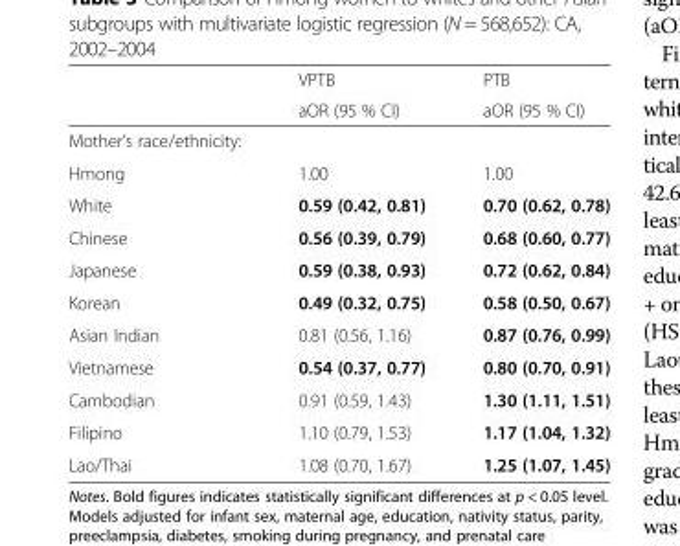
<table><thead><tr><td rowspan="2"></td><td rowspan="2">VPTB aOR (95 % CI)</td><td rowspan="2">PTB aOR (95 % CI)</td></tr><tr></tr></thead><tbody><tr><td colspan="3">Mother’s race/ethnicity:</td></tr><tr><td>Hmong</td><td>1.00</td><td>1.00</td></tr><tr><td>White</td><td>0.59 (0.42, 0.81)</td><td>0.70 (0.62, 0.78)</td></tr><tr><td>Chinese</td><td>0.56 (0.39, 0.79)</td><td>0.68 (0.60, 0.77)</td></tr><tr><td>Japanese</td><td>0.59 (0.38, 0.93)</td><td>0.72 (0.62, 0.84)</td></tr><tr><td>Korean</td><td>0.49 (0.32, 0.75)</td><td>0.58 (0.50, 0.67)</td></tr><tr><td>Asian Indian</td><td>0.81 (0.56, 1.16)</td><td>0.87 (0.76, 0.99)</td></tr><tr><td>Vietnamese</td><td>0.54 (0.37, 0.77)</td><td>0.80 (0.70, 0.91)</td></tr><tr><td>Cambodian</td><td>0.91 (0.59, 1.43)</td><td>1.30 (1.11, 1.51)</td></tr><tr><td>Filipino</td><td>1.10 (0.79, 1.53)</td><td>1.17 (1.04, 1.32)</td></tr><tr><td>Lao/Thai</td><td>1.08 (0.70, 1.67)</td><td>1.25 (1.07, 1.45)</td></tr></tbody></table>